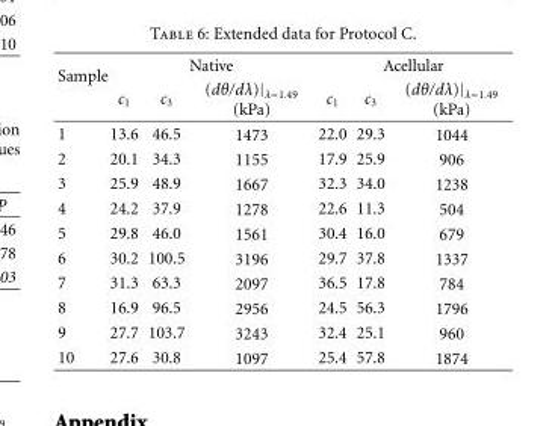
<table><thead><tr><td rowspan="2">Sample</td><td colspan="3">Native</td><td colspan="3">Acellular</td></tr><tr><td>c<sub>1</sub></td><td>c<sub>3</sub></td><td>(dθ/dλ)|<sub>λ=1.49</sub> (kPa)</td><td>c<sub>1</sub></td><td>c<sub>3</sub></td><td>(dθ/dλ)|<sub>λ=1.49</sub> (kPa)</td></tr></thead><tbody><tr><td>1</td><td>13.6</td><td>46.5</td><td>1473</td><td>22.0</td><td>29.3</td><td>1044</td></tr><tr><td>2</td><td>20.1</td><td>34.3</td><td>1155</td><td>17.9</td><td>25.9</td><td>906</td></tr><tr><td>3</td><td>25.9</td><td>48.9</td><td>1667</td><td>32.3</td><td>34.0</td><td>1238</td></tr><tr><td>4</td><td>24.2</td><td>37.9</td><td>1278</td><td>22.6</td><td>11.3</td><td>504</td></tr><tr><td>5</td><td>29.8</td><td>46.0</td><td>1561</td><td>30.4</td><td>16.0</td><td>679</td></tr><tr><td>6</td><td>30.2</td><td>100.5</td><td>3196</td><td>29.7</td><td>37.8</td><td>1337</td></tr><tr><td>7</td><td>31.3</td><td>63.3</td><td>2097</td><td>36.5</td><td>17.8</td><td>784</td></tr><tr><td>8</td><td>16.9</td><td>96.5</td><td>2956</td><td>24.5</td><td>56.3</td><td>1796</td></tr><tr><td>9</td><td>27.7</td><td>103.7</td><td>3243</td><td>32.4</td><td>25.1</td><td>960</td></tr><tr><td>10</td><td>27.6</td><td>30.8</td><td>1097</td><td>25.4</td><td>57.8</td><td>1874</td></tr></tbody></table>